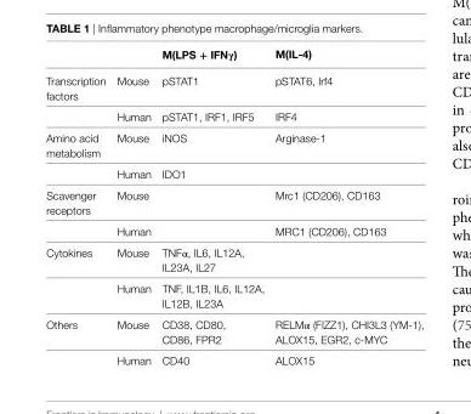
<table><thead><tr><td></td><td></td><td>M(LPS + iFNγ)</td><td>M(iL-4)</td></tr></thead><tbody><tr><td rowspan="2">Transcription factors</td><td>Mouse</td><td>pSTAT1</td><td>pSTAT6, Irf4</td></tr><tr><td>Human</td><td>pSTAT1, IRF1, IRF5</td><td>IRF4</td></tr><tr><td rowspan="2">Amino acid metabolism</td><td>Mouse</td><td>iNOS</td><td>Arginase-1</td></tr><tr><td>Human</td><td>IDO1</td><td></td></tr><tr><td rowspan="2">Scavenger receptors</td><td>Mouse</td><td></td><td>Mrc1 (CD206), CD163</td></tr><tr><td>Human</td><td></td><td>MRC1 (CD206), CD163</td></tr><tr><td rowspan="2">Cytokines</td><td>Mouse</td><td>TNFα, IL6, IL12A, IL23A, IL27</td><td></td></tr><tr><td>Human</td><td>TNF, IL1B, IL6, IL12A, IL12B, IL23A</td><td></td></tr><tr><td rowspan="2">Others</td><td>Mouse</td><td>CD38, CD80, CD86, FPR2</td><td>RELMα (FIZZ1), CHI3L3 (YM-1), ALOX15, EGR2, c-MYC</td></tr><tr><td>Human</td><td>CD40</td><td>ALOX15</td></tr></tbody></table>